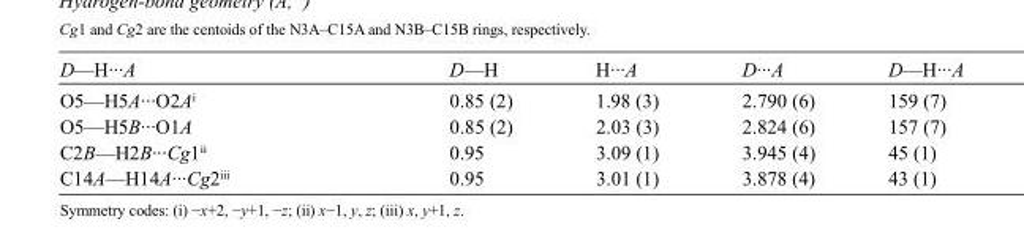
<table><tbody><tr><td>D—H···A</td><td>D—H</td><td>H···A</td><td>D···A</td><td>D—H···A</td></tr><tr><td>O5—H5A···O2A<sup>i</sup></td><td>0.85 (2)</td><td>1.98 (3)</td><td>2.790 (6)</td><td>159 (7)</td></tr><tr><td>O5—H5B···O1A</td><td>0.85 (2)</td><td>2.03 (3)</td><td>2.824 (6)</td><td>157 (7)</td></tr><tr><td>C2B—H2B···Cg1<sup>ii</sup></td><td>0.95</td><td>3.09 (1)</td><td>3.945 (4)</td><td>45 (1)</td></tr><tr><td>C14A—H14A···Cg2<sup>iii</sup></td><td>0.95</td><td>3.01 (1)</td><td>3.878 (4)</td><td>43 (1)</td></tr></tbody></table>